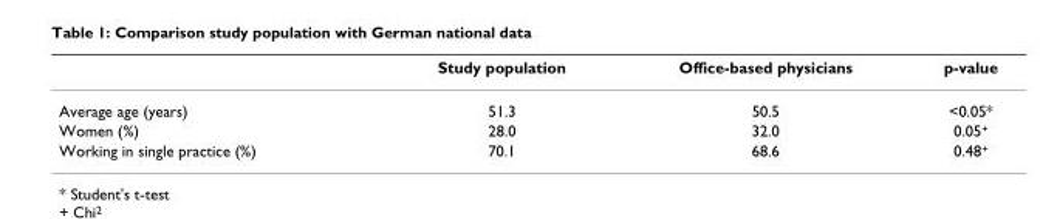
<table><thead><tr><td></td><td>Study population</td><td>Office-based physicians</td><td>p-value</td></tr></thead><tbody><tr><td>Average age (years)</td><td>51.3</td><td>50.5</td><td>&lt;0.05*</td></tr><tr><td>Women (%)</td><td>28.0</td><td>32.0</td><td>0.05<sup>+</sup></td></tr><tr><td>Working in single practice (%)</td><td>70.1</td><td>68.6</td><td>0.48<sup>+</sup></td></tr></tbody></table>